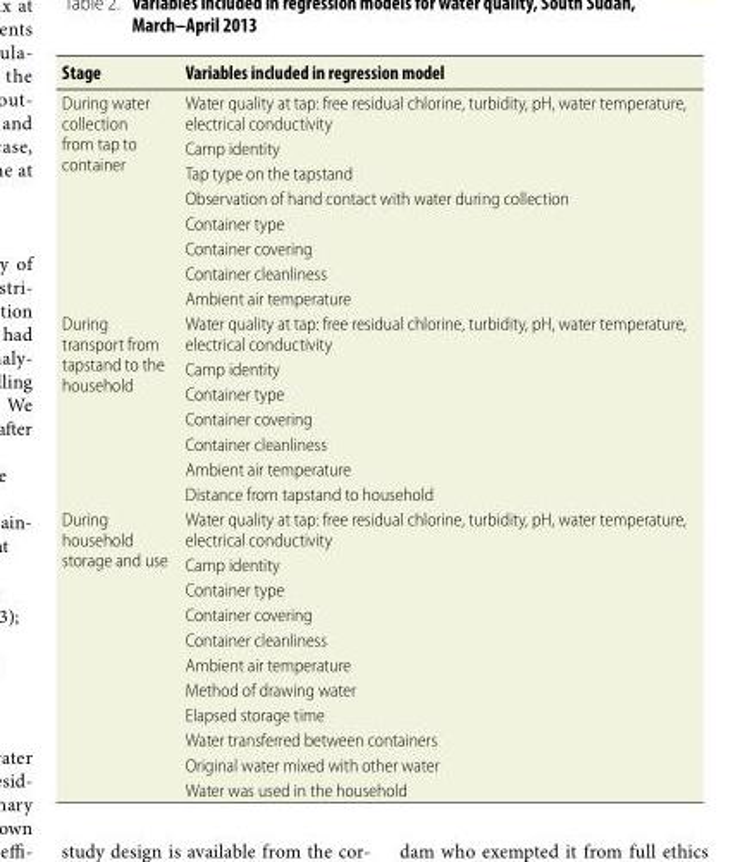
<table><thead><tr><td>Stage</td><td>Variables included in regression model</td></tr></thead><tbody><tr><td rowspan="8">During water collection from tap to container</td><td>Water quality at tap: free residual chlorine, turbidity, pH, water temperature, electrical conductivity</td></tr><tr><td>Camp identity</td></tr><tr><td>Tap type on the tapstand</td></tr><tr><td>Observation of hand contact with water during collection</td></tr><tr><td>Container type</td></tr><tr><td>Container covering</td></tr><tr><td>Container cleanliness</td></tr><tr><td>Ambient air temperature</td></tr><tr><td rowspan="7">During transport from tapstand to the household</td><td>Water quality at tap: free residual chlorine, turbidity, pH, water temperature, electrical conductivity</td></tr><tr><td>Camp identity</td></tr><tr><td>Container type</td></tr><tr><td>Container covering</td></tr><tr><td>Container cleanliness</td></tr><tr><td>Ambient air temperature</td></tr><tr><td>Distance from tapstand to household</td></tr><tr><td rowspan="11">During household storage and use</td><td>Water quality at tap: free residual chlorine, turbidity, pH, water temperature, electrical conductivity</td></tr><tr><td>Camp identity</td></tr><tr><td>Container type</td></tr><tr><td>Container covering</td></tr><tr><td>Container cleanliness</td></tr><tr><td>Ambient air temperature</td></tr><tr><td>Method of drawing water</td></tr><tr><td>Elapsed storage time</td></tr><tr><td>Water transferred between containers</td></tr><tr><td>Original water mixed with other water</td></tr><tr><td>Water was used in the household</td></tr></tbody></table>